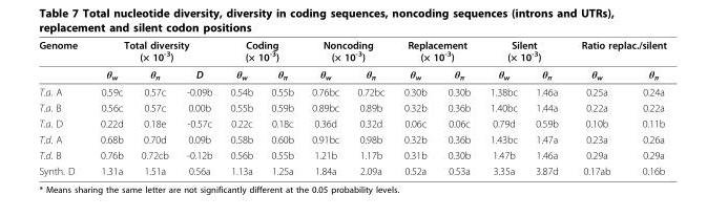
<table><thead><tr><td rowspan="2">Genome</td><td colspan="3">Total diversity (× 10<sup>-3</sup>)</td><td colspan="2">Coding (× 10<sup>-3</sup>)</td><td colspan="2">Noncoding (× 10<sup>-3</sup>)</td><td colspan="2">Replacement (× 10<sup>-3</sup>)</td><td colspan="2">Silent (× 10<sup>-3</sup>)</td><td colspan="2">Ratio replac./silent</td></tr><tr><td>θ<sub>w</sub></td><td>θ<sub>π</sub></td><td>D</td><td>θ<sub>w</sub></td><td>θ<sub>π</sub></td><td>θ<sub>w</sub></td><td>θ<sub>π</sub></td><td>θ<sub>w</sub></td><td>θ<sub>π</sub></td><td>θ<sub>w</sub></td><td>θ<sub>π</sub></td><td>θ<sub>w</sub></td><td>θ<sub>π</sub></td></tr></thead><tbody><tr><td>T.a. A</td><td>0.59c</td><td>0.57c</td><td>-0.09b</td><td>0.54b</td><td>0.55b</td><td>0.76bc</td><td>0.72bc</td><td>0.30b</td><td>0.30b</td><td>1.38bc</td><td>1.46a</td><td>0.25a</td><td>0.24a</td></tr><tr><td>T.a. B</td><td>0.56c</td><td>0.57c</td><td>0.00b</td><td>0.55b</td><td>0.59b</td><td>0.89bc</td><td>0.89b</td><td>0.32b</td><td>0.36b</td><td>1.40bc</td><td>1.44a</td><td>0.22a</td><td>0.22a</td></tr><tr><td>T.a. D</td><td>0.22d</td><td>0.18e</td><td>-0.57c</td><td>0.22c</td><td>0.18c</td><td>0.36d</td><td>0.32d</td><td>0.06c</td><td>0.06c</td><td>0.79d</td><td>0.59b</td><td>0.10b</td><td>0.11b</td></tr><tr><td>T.d. A</td><td>0.68b</td><td>0.70d</td><td>0.09b</td><td>0.58b</td><td>0.60b</td><td>0.91bc</td><td>0.98b</td><td>0.32b</td><td>0.36b</td><td>1.43bc</td><td>1.47a</td><td>0.23a</td><td>0.26a</td></tr><tr><td>T.d. B</td><td>0.76b</td><td>0.72cb</td><td>-0.12b</td><td>0.56b</td><td>0.55b</td><td>1.21b</td><td>1.17b</td><td>0.31b</td><td>0.30b</td><td>1.47b</td><td>1.46a</td><td>0.29a</td><td>0.29a</td></tr><tr><td>Synth. D</td><td>1.31a</td><td>1.51a</td><td>0.56a</td><td>1.13a</td><td>1.25a</td><td>1.84a</td><td>2.09a</td><td>0.52a</td><td>0.53a</td><td>3.35a</td><td>3.87d</td><td>0.17ab</td><td>0.16b</td></tr></tbody></table>